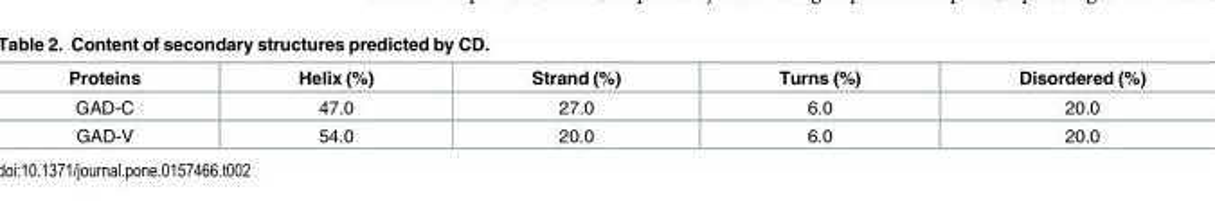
<table><thead><tr><td>Proteins</td><td>Helix (%)</td><td>Strand (%)</td><td>Turns (%)</td><td>Disordered (%)</td></tr></thead><tbody><tr><td>GAD-C</td><td>47.0</td><td>27.0</td><td>6.0</td><td>20.0</td></tr><tr><td>GAD-V</td><td>54.0</td><td>20.0</td><td>6.0</td><td>20.0</td></tr></tbody></table>